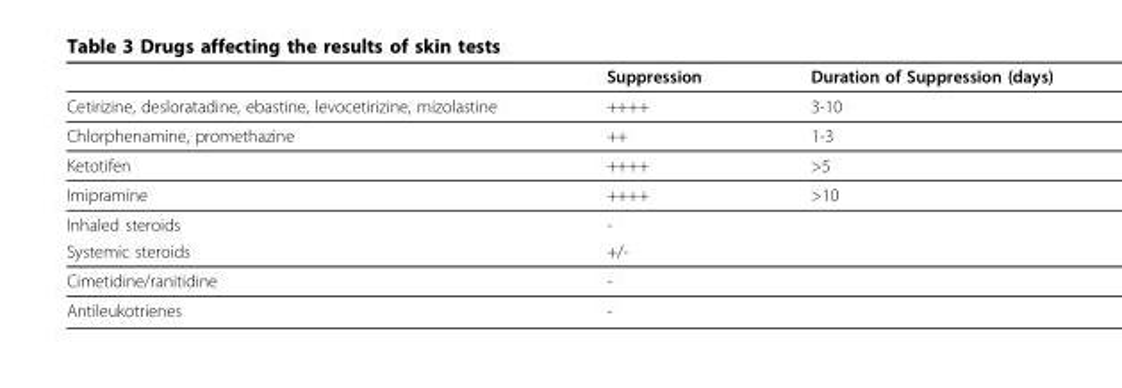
<table><thead><tr><td></td><td>Suppression</td><td>Duration of Suppression (days)</td></tr></thead><tbody><tr><td>Cetirizine, desloratadine, ebastine, levocetirizine, mizolastine</td><td>++++</td><td>3-10</td></tr><tr><td>Chlorphenamine, promethazine</td><td>++</td><td>1-3</td></tr><tr><td>Ketotifen</td><td>++++</td><td>&gt;5</td></tr><tr><td>Imipramine</td><td>++++</td><td>&gt;10</td></tr><tr><td>Inhaled steroids</td><td>-</td><td></td></tr><tr><td>Systemic steroids</td><td>+/-</td><td></td></tr><tr><td>Cimetidine/ranitidine</td><td>-</td><td></td></tr><tr><td>Antileukotrienes</td><td>-</td><td></td></tr></tbody></table>